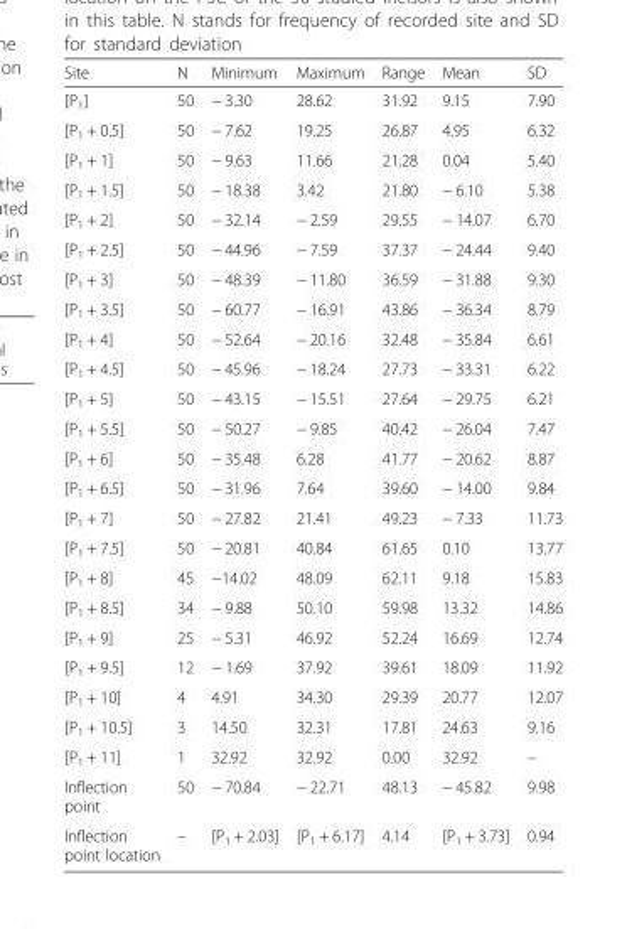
<table><thead><tr><td>Site</td><td>N</td><td>Minimum</td><td>Maximum</td><td>Range</td><td>Mean</td><td>SD</td></tr></thead><tbody><tr><td>[P<sub>1</sub>]</td><td>50</td><td>− 3.30</td><td>28.62</td><td>31.92</td><td>9.15</td><td>7.90</td></tr><tr><td>[P<sub>1</sub> + 0.5]</td><td>50</td><td>− 7.62</td><td>19.25</td><td>26.87</td><td>4.95</td><td>6.32</td></tr><tr><td>[P<sub>1</sub> + 1]</td><td>50</td><td>− 9.63</td><td>11.66</td><td>21.28</td><td>0.04</td><td>5.40</td></tr><tr><td>[P<sub>1</sub> + 1.5]</td><td>50</td><td>− 18.38</td><td>3.42</td><td>21.80</td><td>− 6.10</td><td>5.38</td></tr><tr><td>[P<sub>1</sub> + 2]</td><td>50</td><td>− 32.14</td><td>− 2.59</td><td>29.55</td><td>− 14.07</td><td>6.70</td></tr><tr><td>[P<sub>1</sub> + 2.5]</td><td>50</td><td>− 44.96</td><td>− 7.59</td><td>37.37</td><td>− 24.44</td><td>9.40</td></tr><tr><td>[P<sub>1</sub> + 3]</td><td>50</td><td>− 48.39</td><td>− 11.80</td><td>36.59</td><td>− 31.88</td><td>9.30</td></tr><tr><td>[P<sub>1</sub> + 3.5]</td><td>50</td><td>− 60.77</td><td>− 16.91</td><td>43.86</td><td>− 36.34</td><td>8.79</td></tr><tr><td>[P<sub>1</sub> + 4]</td><td>50</td><td>− 52.64</td><td>− 20.16</td><td>32.48</td><td>− 35.84</td><td>6.61</td></tr><tr><td>[P<sub>1</sub> + 4.5]</td><td>50</td><td>− 45.96</td><td>− 18.24</td><td>27.73</td><td>− 33.31</td><td>6.22</td></tr><tr><td>[P<sub>1</sub> + 5]</td><td>50</td><td>− 43.15</td><td>− 15.51</td><td>27.64</td><td>− 29.75</td><td>6.21</td></tr><tr><td>[P<sub>1</sub> + 5.5]</td><td>50</td><td>− 50.27</td><td>− 9.85</td><td>40.42</td><td>− 26.04</td><td>7.47</td></tr><tr><td>[P<sub>1</sub> + 6]</td><td>50</td><td>− 35.48</td><td>6.28</td><td>41.77</td><td>− 20.62</td><td>8.87</td></tr><tr><td>[P<sub>1</sub> + 6.5]</td><td>50</td><td>− 31.96</td><td>7.64</td><td>39.60</td><td>− 14.00</td><td>9.84</td></tr><tr><td>[P<sub>1</sub> + 7]</td><td>50</td><td>− 27.82</td><td>21.41</td><td>49.23</td><td>− 7.33</td><td>11.73</td></tr><tr><td>[P<sub>1</sub> + 7.5]</td><td>50</td><td>− 20.81</td><td>40.84</td><td>61.65</td><td>0.10</td><td>13.77</td></tr><tr><td>[P<sub>1</sub> + 8]</td><td>45</td><td>−14.02</td><td>48.09</td><td>62.11</td><td>9.18</td><td>15.83</td></tr><tr><td>[P<sub>1</sub> + 8.5]</td><td>34</td><td>− 9.88</td><td>50.10</td><td>59.98</td><td>13.32</td><td>14.86</td></tr><tr><td>[P<sub>1</sub> + 9]</td><td>25</td><td>− 5.31</td><td>46.92</td><td>52.24</td><td>16.69</td><td>12.74</td></tr><tr><td>[P<sub>1</sub> + 9.5]</td><td>12</td><td>− 1.69</td><td>37.92</td><td>39.61</td><td>18.09</td><td>11.92</td></tr><tr><td>[P<sub>1</sub> + 10]</td><td>4</td><td>4.91</td><td>34.30</td><td>29.39</td><td>20.77</td><td>12.07</td></tr><tr><td>[P<sub>1</sub> + 10.5]</td><td>3</td><td>14.50</td><td>32.31</td><td>17.81</td><td>24.63</td><td>9.16</td></tr><tr><td>[P<sub>1</sub> + 11]</td><td>1</td><td>32.92</td><td>32.92</td><td>0.00</td><td>32.92</td><td>–</td></tr><tr><td>Inflection point</td><td>50</td><td>− 70.84</td><td>− 22.71</td><td>48.13</td><td>− 45.82</td><td>9.98</td></tr><tr><td>Inflection point location</td><td>–</td><td>[P<sub>1</sub> + 2.03]</td><td>[P<sub>1</sub> + 6.17]</td><td>4.14</td><td>[P<sub>1</sub> + 3.73]</td><td>0.94</td></tr></tbody></table>